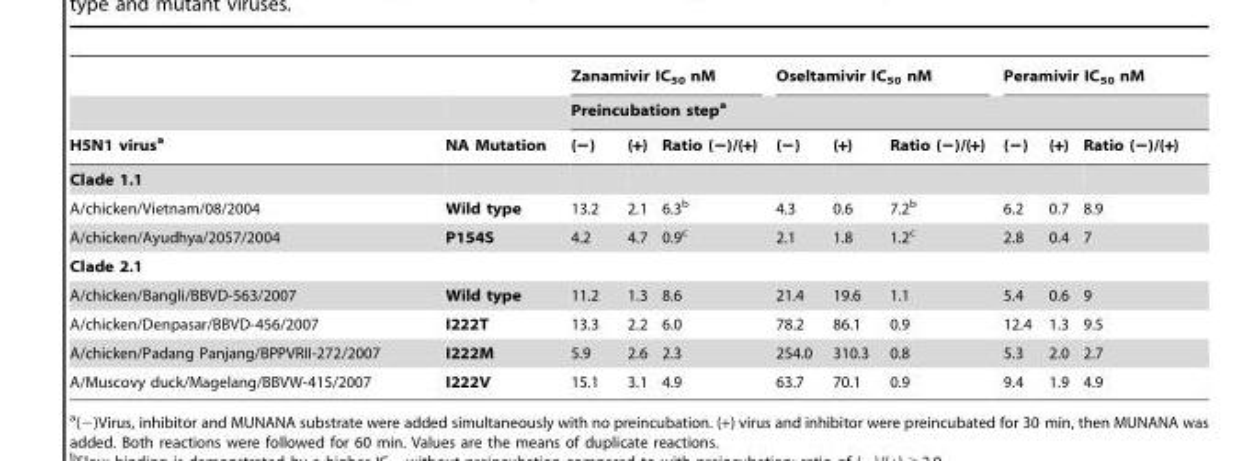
<table><thead><tr><td rowspan="3">H5N1 virus<sup>a</sup></td><td rowspan="3">NA Mutation</td><td colspan="3">Zanamivir IC<sub>50</sub> nM</td><td colspan="3">Oseltamivir IC<sub>50</sub> nM</td><td colspan="3">Peramivir IC<sub>50</sub> nM</td></tr><tr><td colspan="9">Preincubation step<sup>a</sup></td></tr><tr><td>(−)</td><td>(+)</td><td>Ratio (−)/(+)</td><td>(−)</td><td>(+)</td><td>Ratio (−)/(+)</td><td>(−)</td><td>(+)</td><td>Ratio (−)/(+)</td></tr></thead><tbody><tr><td colspan="11">Clade 1.1</td></tr><tr><td>A/chicken/Vietnam/08/2004</td><td>Wild type</td><td>13.2</td><td>2.1</td><td>6.3<sup>b</sup></td><td>4.3</td><td>0.6</td><td>7.2<sup>b</sup></td><td>6.2</td><td>0.7</td><td>8.9</td></tr><tr><td>A/chicken/Ayudhya/2057/2004</td><td>P154S</td><td>4.2</td><td>4.7</td><td>0.9<sup>c</sup></td><td>2.1</td><td>1.8</td><td>1.2<sup>c</sup></td><td>2.8</td><td>0.4</td><td>7</td></tr><tr><td colspan="11">Clade 2.1</td></tr><tr><td>A/chicken/Bangli/BBVD-563/2007</td><td>Wild type</td><td>11.2</td><td>1.3</td><td>8.6</td><td>21.4</td><td>19.6</td><td>1.1</td><td>5.4</td><td>0.6</td><td>9</td></tr><tr><td>A/chicken/Denpasar/BBVD-456/2007</td><td>I222T</td><td>13.3</td><td>2.2</td><td>6.0</td><td>78.2</td><td>86.1</td><td>0.9</td><td>12.4</td><td>1.3</td><td>9.5</td></tr><tr><td>A/chicken/Padang Panjang/BPPVRII-272/2007</td><td>I222M</td><td>5.9</td><td>2.6</td><td>2.3</td><td>254.0</td><td>310.3</td><td>0.8</td><td>5.3</td><td>2.0</td><td>2.7</td></tr><tr><td>A/Muscovy duck/Magelang/BBVW-415/2007</td><td>I222V</td><td>15.1</td><td>3.1</td><td>4.9</td><td>63.7</td><td>70.1</td><td>0.9</td><td>9.4</td><td>1.9</td><td>4.9</td></tr></tbody></table>